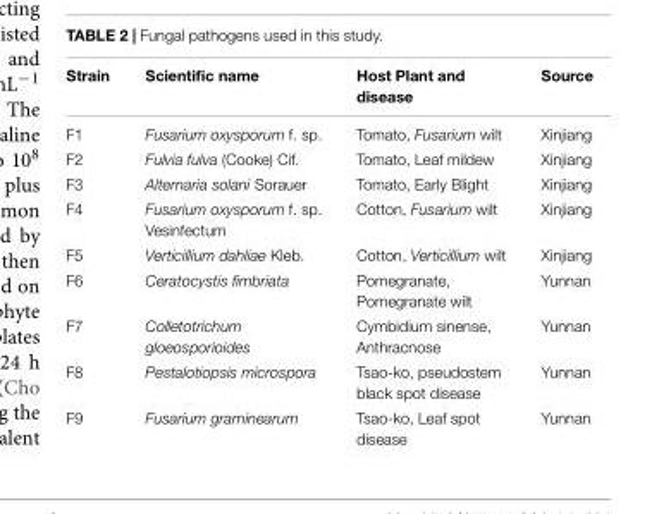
<table><thead><tr><td>Strain</td><td>Scientific name</td><td>Host Plant and disease</td><td>Source</td></tr></thead><tbody><tr><td>F1</td><td>Fusarium oxysporum f. sp.</td><td>Tomato, Fusarium wilt</td><td>Xinjiang</td></tr><tr><td>F2</td><td>Fulvia fulva (Cooke) Cif.</td><td>Tomato, Leaf mildew</td><td>Xinjiang</td></tr><tr><td>F3</td><td>Alternaria solani Sorauer</td><td>Tomato, Early Blight</td><td>Xinjiang</td></tr><tr><td>F4</td><td>Fusarium oxysporum f. sp. Vesinfectum</td><td>Cotton, Fusarium wilt</td><td>Xinjiang</td></tr><tr><td>F5</td><td>Verticillium dahliae Kleb.</td><td>Cotton, Verticillium wilt</td><td>Xinjiang</td></tr><tr><td>F6</td><td>Ceratocystis fimbriata</td><td>Pomegranate, Pomegranate wilt</td><td>Yunnan</td></tr><tr><td>F7</td><td>Colletotrichum gloeosporioides</td><td>Cymbidium sinense, Anthracnose</td><td>Yunnan</td></tr><tr><td>F8</td><td>Pestalotiopsis microspora</td><td>Tsao-ko, pseudostem black spot disease</td><td>Yunnan</td></tr><tr><td>F9</td><td>Fusarium graminearum</td><td>Tsao-ko, Leaf spot disease</td><td>Yunnan</td></tr></tbody></table>